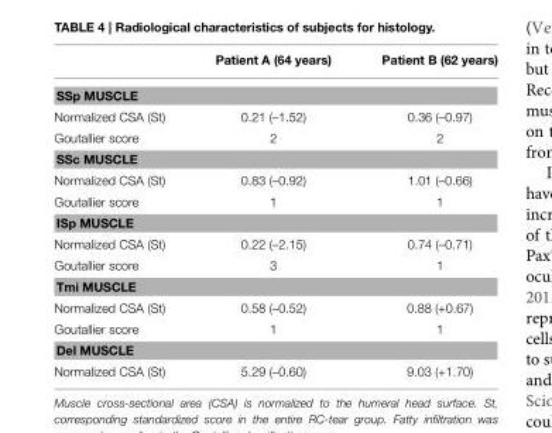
<table><thead><tr><td></td><td>Patient A (64 years)</td><td>Patient B (62 years)</td></tr></thead><tbody><tr><td colspan="3">SSp MUSCLE</td></tr><tr><td>Normalized CSA (St)</td><td>0.21 (–1.52)</td><td>0.36 (–0.97)</td></tr><tr><td>Goutallier score</td><td>2</td><td>2</td></tr><tr><td colspan="3">SSc MUSCLE</td></tr><tr><td>Normalized CSA (St)</td><td>0.83 (–0.92)</td><td>1.01 (–0.66)</td></tr><tr><td>Goutallier score</td><td>1</td><td>1</td></tr><tr><td colspan="3">ISp MUSCLE</td></tr><tr><td>Normalized CSA (St)</td><td>0.22 (–2.15)</td><td>0.74 (–0.71)</td></tr><tr><td>Goutallier score</td><td>3</td><td>1</td></tr><tr><td colspan="3">Tmi MUSCLE</td></tr><tr><td>Normalized CSA (St)</td><td>0.58 (–0.52)</td><td>0.88 (+0.67)</td></tr><tr><td>Goutallier score</td><td>1</td><td>1</td></tr><tr><td colspan="3">Del MUSCLE</td></tr><tr><td>Normalized CSA (St)</td><td>5.29 (–0.60)</td><td>9.03 (+1.70)</td></tr></tbody></table>